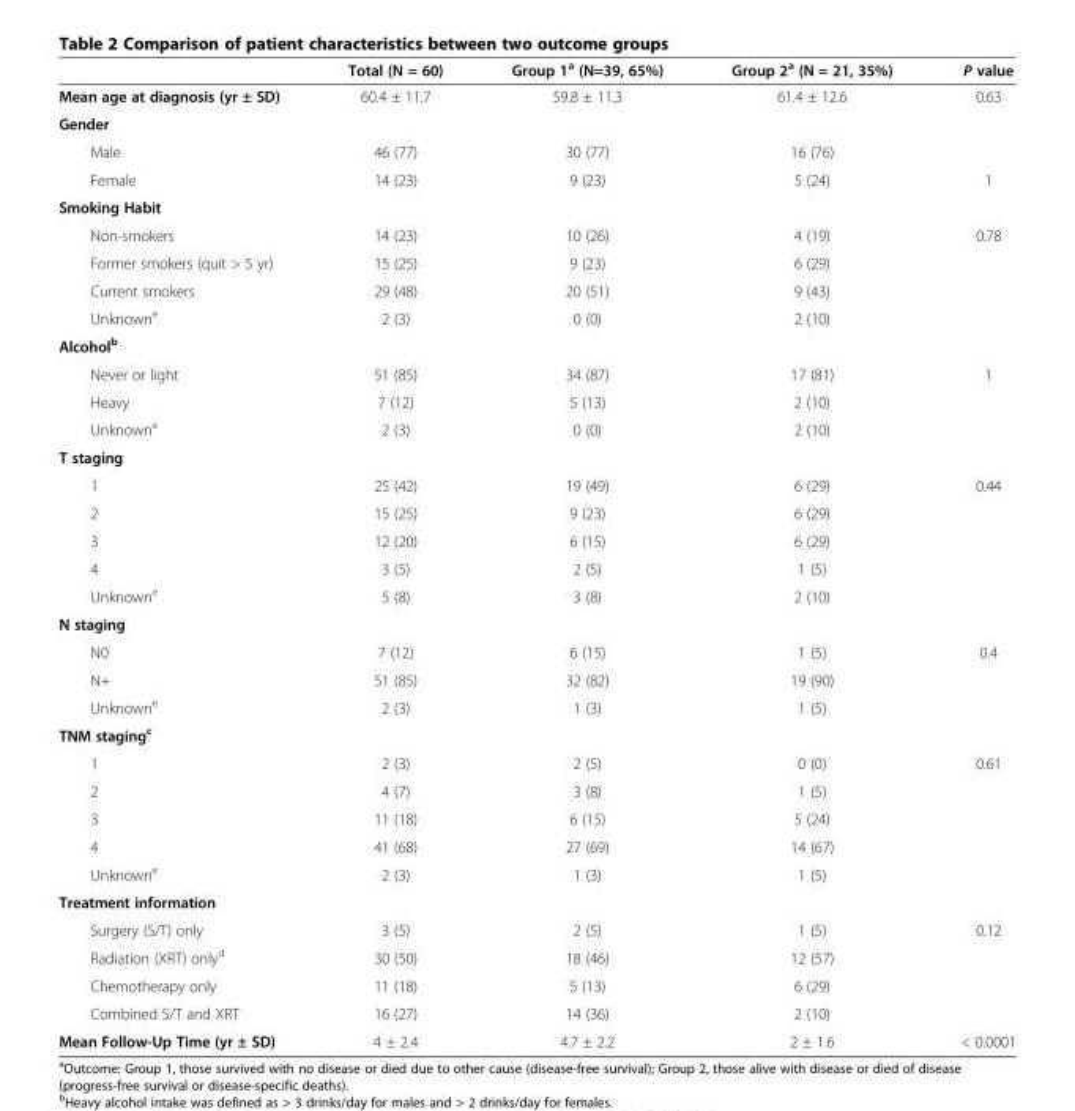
<table><thead><tr><td></td><td>Total (N = 60)</td><td>Group 1<sup>a</sup> (N=39, 65%)</td><td>Group 2<sup>a</sup> (N = 21, 35%)</td><td>P value</td></tr></thead><tbody><tr><td>Mean age at diagnosis (yr ± SD)</td><td>60.4 ± 11.7</td><td>59.8 ± 11.3</td><td>61.4 ± 12.6</td><td>0.63</td></tr><tr><td colspan="5">Gender</td></tr><tr><td>Male</td><td>46 (77)</td><td>30 (77)</td><td>16 (76)</td><td></td></tr><tr><td>Female</td><td>14 (23)</td><td>9 (23)</td><td>5 (24)</td><td>1</td></tr><tr><td colspan="5">Smoking Habit</td></tr><tr><td>Non-smokers</td><td>14 (23)</td><td>10 (26)</td><td>4 (19)</td><td>0.78</td></tr><tr><td>Former smokers (quit &gt; 5 yr)</td><td>15 (25)</td><td>9 (23)</td><td>6 (29)</td><td></td></tr><tr><td>Current smokers</td><td>29 (48)</td><td>20 (51)</td><td>9 (43)</td><td></td></tr><tr><td>Unknown<sup>e</sup></td><td>2 (3)</td><td>0 (0)</td><td>2 (10)</td><td></td></tr><tr><td colspan="5">Alcohol<sup>b</sup></td></tr><tr><td>Never or light</td><td>51 (85)</td><td>34 (87)</td><td>17 (81)</td><td>1</td></tr><tr><td>Heavy</td><td>7 (12)</td><td>5 (13)</td><td>2 (10)</td><td></td></tr><tr><td>Unknown<sup>e</sup></td><td>2 (3)</td><td>0 (0)</td><td>2 (10)</td><td></td></tr><tr><td colspan="5">T staging</td></tr><tr><td>1</td><td>25 (42)</td><td>19 (49)</td><td>6 (29)</td><td>0.44</td></tr><tr><td>2</td><td>15 (25)</td><td>9 (23)</td><td>6 (29)</td><td></td></tr><tr><td>3</td><td>12 (20)</td><td>6 (15)</td><td>6 (29)</td><td></td></tr><tr><td>4</td><td>3 (5)</td><td>2 (5)</td><td>1 (5)</td><td></td></tr><tr><td>Unknown<sup>e</sup></td><td>5 (8)</td><td>3 (8)</td><td>2 (10)</td><td></td></tr><tr><td colspan="5">N staging</td></tr><tr><td>N0</td><td>7 (12)</td><td>6 (15)</td><td>1 (5)</td><td>0.4</td></tr><tr><td>N+</td><td>51 (85)</td><td>32 (82)</td><td>19 (90)</td><td></td></tr><tr><td>Unknown<sup>e</sup></td><td>2 (3)</td><td>1 (3)</td><td>1 (5)</td><td></td></tr><tr><td colspan="5">TNM staging<sup>c</sup></td></tr><tr><td>1</td><td>2 (3)</td><td>2 (5)</td><td>0 (0)</td><td>0.61</td></tr><tr><td>2</td><td>4 (7)</td><td>3 (8)</td><td>1 (5)</td><td></td></tr><tr><td>3</td><td>11 (18)</td><td>6 (15)</td><td>5 (24)</td><td></td></tr><tr><td>4</td><td>41 (68)</td><td>27 (69)</td><td>14 (67)</td><td></td></tr><tr><td>Unknown<sup>e</sup></td><td>2 (3)</td><td>1 (3)</td><td>1 (5)</td><td></td></tr><tr><td colspan="5">Treatment information</td></tr><tr><td>Surgery (S/T) only</td><td>3 (5)</td><td>2 (5)</td><td>1 (5)</td><td>0.12</td></tr><tr><td>Radiation (XRT) only<sup>d</sup></td><td>30 (50)</td><td>18 (46)</td><td>12 (57)</td><td></td></tr><tr><td>Chemotherapy only</td><td>11 (18)</td><td>5 (13)</td><td>6 (29)</td><td></td></tr><tr><td>Combined S/T and XRT</td><td>16 (27)</td><td>14 (36)</td><td>2 (10)</td><td></td></tr><tr><td>Mean Follow-Up Time (yr ± SD)</td><td>4 ± 2.4</td><td>4.7 ± 2.2</td><td>2 ± 1.6</td><td>&lt; 0.0001</td></tr></tbody></table>